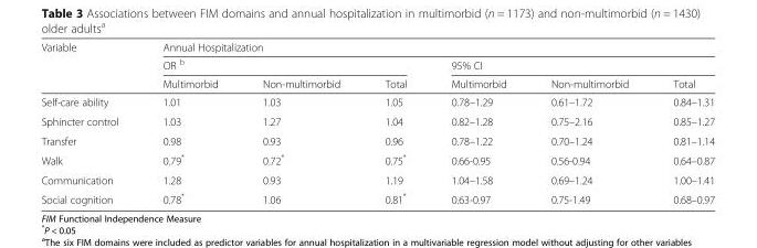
<table><thead><tr><td rowspan="3">Variable</td><td colspan="6">Annual Hospitalization</td></tr><tr><td colspan="3">OR <sup>b</sup></td><td colspan="3">95% CI</td></tr><tr><td>Multimorbid</td><td>Non-multimorbid</td><td>Total</td><td>Multimorbid</td><td>Non-multimorbid</td><td>Total</td></tr></thead><tbody><tr><td>Self-care ability</td><td>1.01</td><td>1.03</td><td>1.05</td><td>0.78–1.29</td><td>0.61–1.72</td><td>0.84–1.31</td></tr><tr><td>Sphincter control</td><td>1.03</td><td>1.27</td><td>1.04</td><td>0.82–1.28</td><td>0.75–2.16</td><td>0.85–1.27</td></tr><tr><td>Transfer</td><td>0.98</td><td>0.93</td><td>0.96</td><td>0.78–1.22</td><td>0.70–1.24</td><td>0.81–1.14</td></tr><tr><td>Walk</td><td>0.79*</td><td>0.72*</td><td>0.75*</td><td>0.66-0.95</td><td>0.56-0.94</td><td>0.64–0.87</td></tr><tr><td>Communication</td><td>1.28</td><td>0.93</td><td>1.19</td><td>1.04–1.58</td><td>0.69–1.24</td><td>1.00–1.41</td></tr><tr><td>Social cognition</td><td>0.78*</td><td>1.06</td><td>0.81*</td><td>0.63-0.97</td><td>0.75-1.49</td><td>0.68–0.97</td></tr></tbody></table>